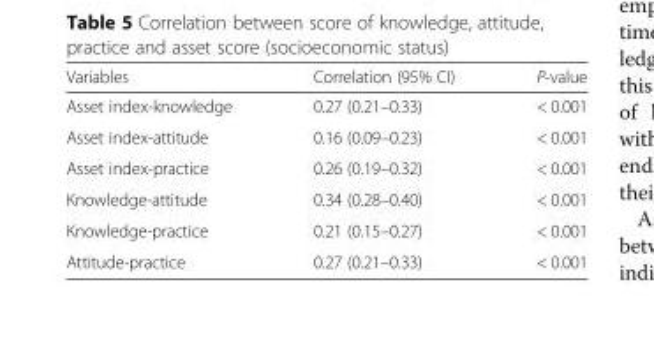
<table><thead><tr><td>Variables</td><td>Correlation (95% CI)</td><td>P-value</td></tr></thead><tbody><tr><td>Asset index-knowledge</td><td>0.27 (0.21–0.33)</td><td>&lt; 0.001</td></tr><tr><td>Asset index-attitude</td><td>0.16 (0.09–0.23)</td><td>&lt; 0.001</td></tr><tr><td>Asset index-practice</td><td>0.26 (0.19–0.32)</td><td>&lt; 0.001</td></tr><tr><td>Knowledge-attitude</td><td>0.34 (0.28–0.40)</td><td>&lt; 0.001</td></tr><tr><td>Knowledge-practice</td><td>0.21 (0.15–0.27)</td><td>&lt; 0.001</td></tr><tr><td>Attitude-practice</td><td>0.27 (0.21–0.33)</td><td>&lt; 0.001</td></tr></tbody></table>